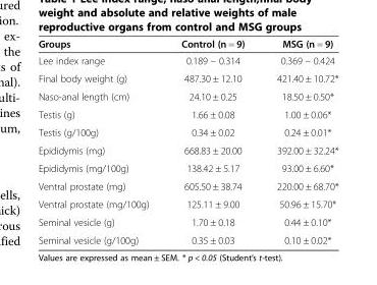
<table><thead><tr><td>Groups</td><td>Control (n = 9)</td><td>MSG (n = 9)</td></tr></thead><tbody><tr><td>Lee index range</td><td>0.189 – 0.314</td><td>0.369 – 0.424</td></tr><tr><td>Final body weight (g)</td><td>487.30 ± 12.10</td><td>421.40 ± 10.72*</td></tr><tr><td>Naso-anal length (cm)</td><td>24.10 ± 0.25</td><td>18.50 ± 0.50*</td></tr><tr><td>Testis (g)</td><td>1.66 ± 0.08</td><td>1.00 ± 0.06*</td></tr><tr><td>Testis (g/100g)</td><td>0.34 ± 0.02</td><td>0.24 ± 0.01*</td></tr><tr><td>Epididymis (mg)</td><td>668.83 ± 20.00</td><td>392.00 ± 32.24*</td></tr><tr><td>Epididymis (mg/100g)</td><td>138.42 ± 5.17</td><td>93.00 ± 6.60*</td></tr><tr><td>Ventral prostate (mg)</td><td>605.50 ± 38.74</td><td>220.00 ± 68.70*</td></tr><tr><td>Ventral prostate (mg/100g)</td><td>125.11 ± 9.00</td><td>50.96 ± 15.70*</td></tr><tr><td>Seminal vesicle (g)</td><td>1.70 ± 0.18</td><td>0.44 ± 0.10*</td></tr><tr><td>Seminal vesicle (g/100g)</td><td>0.35 ± 0.03</td><td>0.10 ± 0.02*</td></tr></tbody></table>